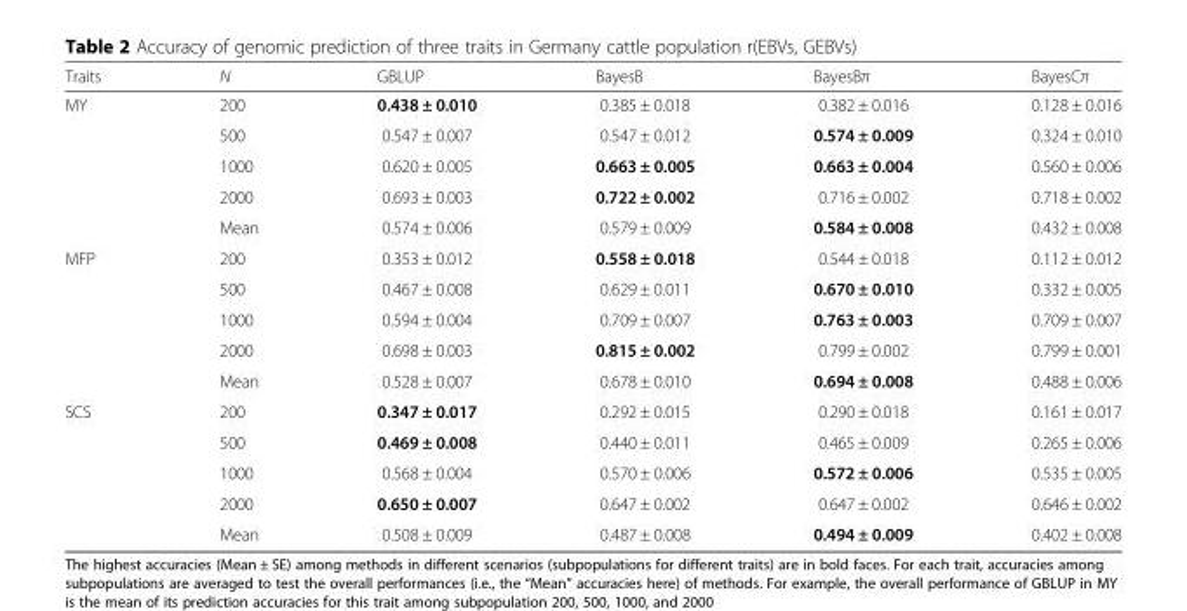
<table><thead><tr><td>Traits</td><td>N</td><td>GBLUP</td><td>BayesB</td><td>BayesBπ</td><td>BayesCπ</td></tr></thead><tbody><tr><td rowspan="5">MY</td><td>200</td><td>0.438 ± 0.010</td><td>0.385 ± 0.018</td><td>0.382 ± 0.016</td><td>0.128 ± 0.016</td></tr><tr><td>500</td><td>0.547 ± 0.007</td><td>0.547 ± 0.012</td><td>0.574 ± 0.009</td><td>0.324 ± 0.010</td></tr><tr><td>1000</td><td>0.620 ± 0.005</td><td>0.663 ± 0.005</td><td>0.663 ± 0.004</td><td>0.560 ± 0.006</td></tr><tr><td>2000</td><td>0.693 ± 0.003</td><td>0.722 ± 0.002</td><td>0.716 ± 0.002</td><td>0.718 ± 0.002</td></tr><tr><td>Mean</td><td>0.574 ± 0.006</td><td>0.579 ± 0.009</td><td>0.584 ± 0.008</td><td>0.432 ± 0.008</td></tr><tr><td rowspan="5">MFP</td><td>200</td><td>0.353 ± 0.012</td><td>0.558 ± 0.018</td><td>0.544 ± 0.018</td><td>0.112 ± 0.012</td></tr><tr><td>500</td><td>0.467 ± 0.008</td><td>0.629 ± 0.011</td><td>0.670 ± 0.010</td><td>0.332 ± 0.005</td></tr><tr><td>1000</td><td>0.594 ± 0.004</td><td>0.709 ± 0.007</td><td>0.763 ± 0.003</td><td>0.709 ± 0.007</td></tr><tr><td>2000</td><td>0.698 ± 0.003</td><td>0.815 ± 0.002</td><td>0.799 ± 0.002</td><td>0.799 ± 0.001</td></tr><tr><td>Mean</td><td>0.528 ± 0.007</td><td>0.678 ± 0.010</td><td>0.694 ± 0.008</td><td>0.488 ± 0.006</td></tr><tr><td rowspan="5">SCS</td><td>200</td><td>0.347 ± 0.017</td><td>0.292 ± 0.015</td><td>0.290 ± 0.018</td><td>0.161 ± 0.017</td></tr><tr><td>500</td><td>0.469 ± 0.008</td><td>0.440 ± 0.011</td><td>0.465 ± 0.009</td><td>0.265 ± 0.006</td></tr><tr><td>1000</td><td>0.568 ± 0.004</td><td>0.570 ± 0.006</td><td>0.572 ± 0.006</td><td>0.535 ± 0.005</td></tr><tr><td>2000</td><td>0.650 ± 0.007</td><td>0.647 ± 0.002</td><td>0.647 ± 0.002</td><td>0.646 ± 0.002</td></tr><tr><td>Mean</td><td>0.508 ± 0.009</td><td>0.487 ± 0.008</td><td>0.494 ± 0.009</td><td>0.402 ± 0.008</td></tr></tbody></table>